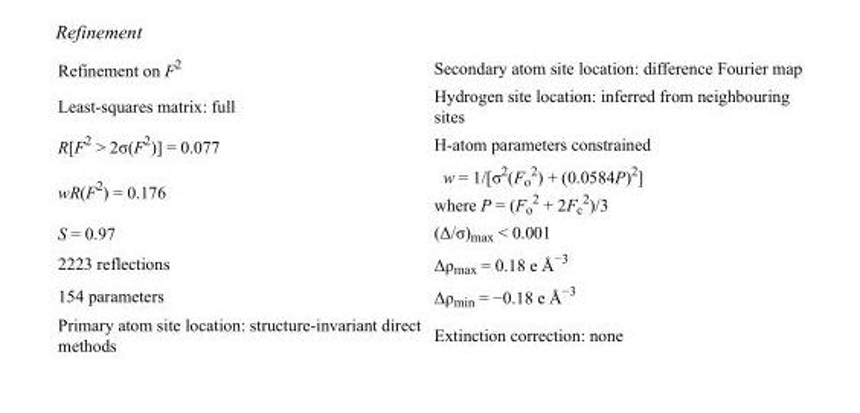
<table><tbody><tr><td>Refinement on F<sup>2</sup></td><td>Secondary atom site location: difference Fourier map</td></tr><tr><td>Least-squares matrix: full</td><td>Hydrogen site location: inferred from neighbouring sites</td></tr><tr><td>R[F<sup>2</sup> &gt; 2σ(F<sup>2</sup>)] = 0.077</td><td>H-atom parameters constrained</td></tr><tr><td>wR(F<sup>2</sup>) = 0.176</td><td>w = 1/[σ<sup>2</sup>(F<sub>o</sub> <sup>2</sup>) + (0.0584P)<sup>2</sup>] where P = (F<sub>o</sub> <sup>2</sup> + 2F<sub>c</sub> <sup>2</sup>)/3</td></tr><tr><td>S = 0.97</td><td>(Δ/σ)<sub>max</sub> &lt; 0.001</td></tr><tr><td>2223 reflections</td><td>Δρ<sub>max</sub> = 0.18 e Å<sup>−3</sup></td></tr><tr><td>154 parameters</td><td>Δρ<sub>min</sub> = −0.18 e Å<sup>−3</sup></td></tr><tr><td>Primary atom site location: structure-invariant direct methods</td><td>Extinction correction: none</td></tr></tbody></table>